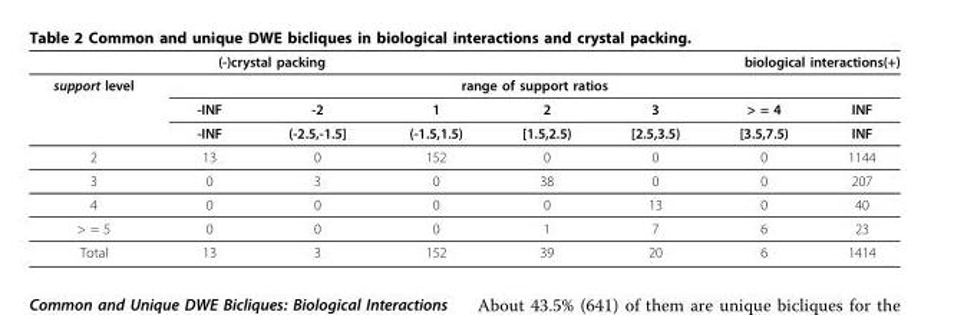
<table><thead><tr><td rowspan="3">support level</td><td colspan="2">(-)crystal packing</td><td colspan="5">biological interactions(+)</td></tr><tr><td colspan="7">range of support ratios</td></tr><tr><td>-INF</td><td>-2</td><td>1</td><td>2</td><td>3</td><td>&gt; = 4</td><td>INF</td></tr></thead><tbody><tr><td></td><td>-INF</td><td>(-2.5,-1.5]</td><td>(-1.5,1.5)</td><td>[1.5,2.5)</td><td>[2.5,3.5)</td><td>[3.5,7.5)</td><td>INF</td></tr><tr><td>2</td><td>13</td><td>0</td><td>152</td><td>0</td><td>0</td><td>0</td><td>1144</td></tr><tr><td>3</td><td>0</td><td>3</td><td>0</td><td>38</td><td>0</td><td>0</td><td>207</td></tr><tr><td>4</td><td>0</td><td>0</td><td>0</td><td>0</td><td>13</td><td>0</td><td>40</td></tr><tr><td>&gt; = 5</td><td>0</td><td>0</td><td>0</td><td>1</td><td>7</td><td>6</td><td>23</td></tr><tr><td>Total</td><td>13</td><td>3</td><td>152</td><td>39</td><td>20</td><td>6</td><td>1414</td></tr></tbody></table>